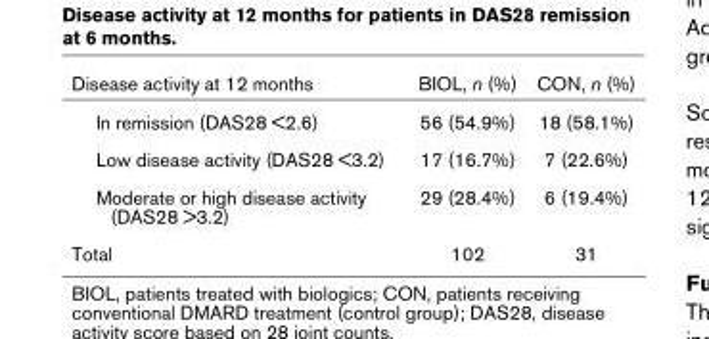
<table><thead><tr><td>Disease activity at 12 months</td><td>BIOL, n (%)</td><td>CON, n (%)</td></tr></thead><tbody><tr><td>In remission (DAS28 &lt;2.6)</td><td>56 (54.9%)</td><td>18 (58.1%)</td></tr><tr><td>Low disease activity (DAS28 &lt;3.2)</td><td>17 (16.7%)</td><td>7 (22.6%)</td></tr><tr><td>Moderate or high disease activity (DAS28 &gt;3.2)</td><td>29 (28.4%)</td><td>6 (19.4%)</td></tr><tr><td>Total</td><td>102</td><td>31</td></tr></tbody></table>